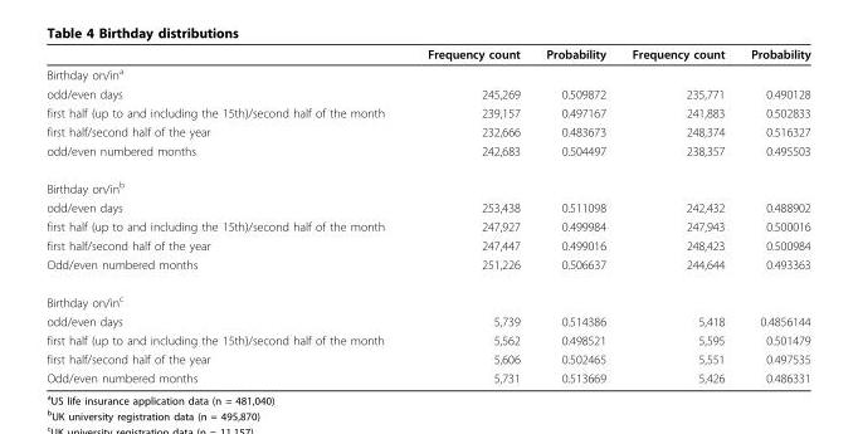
<table><thead><tr><td></td><td>Frequency count</td><td>Probability</td><td>Frequency count</td><td>Probability</td></tr></thead><tbody><tr><td colspan="5">Birthday on/in<sup>a</sup></td></tr><tr><td>odd/even days</td><td>245,269</td><td>0.509872</td><td>235,771</td><td>0.490128</td></tr><tr><td>first half (up to and including the 15th)/second half of the month</td><td>239,157</td><td>0.497167</td><td>241,883</td><td>0.502833</td></tr><tr><td>first half/second half of the year</td><td>232,666</td><td>0.483673</td><td>248,374</td><td>0.516327</td></tr><tr><td>odd/even numbered months</td><td>242,683</td><td>0.504497</td><td>238,357</td><td>0.495503</td></tr><tr><td colspan="5">Birthday on/in<sup>b</sup></td></tr><tr><td>odd/even days</td><td>253,438</td><td>0.511098</td><td>242,432</td><td>0.488902</td></tr><tr><td>first half (up to and including the 15th)/second half of the month</td><td>247,927</td><td>0.499984</td><td>247,943</td><td>0.500016</td></tr><tr><td>first half/second half of the year</td><td>247,447</td><td>0.499016</td><td>248,423</td><td>0.500984</td></tr><tr><td>Odd/even numbered months</td><td>251,226</td><td>0.506637</td><td>244,644</td><td>0.493363</td></tr><tr><td colspan="5">Birthday on/in<sup>c</sup></td></tr><tr><td>odd/even days</td><td>5,739</td><td>0.514386</td><td>5,418</td><td>0.4856144</td></tr><tr><td>first half (up to and including the 15th)/second half of the month</td><td>5,562</td><td>0.498521</td><td>5,595</td><td>0.501479</td></tr><tr><td>first half/second half of the year</td><td>5,606</td><td>0.502465</td><td>5,551</td><td>0.497535</td></tr><tr><td>Odd/even numbered months</td><td>5,731</td><td>0.513669</td><td>5,426</td><td>0.486331</td></tr></tbody></table>